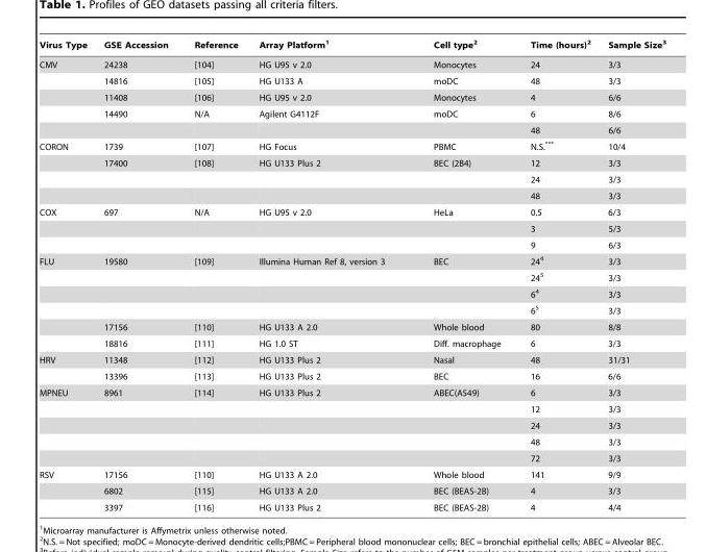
<table><thead><tr><td>Virus Type</td><td>GSE Accession</td><td>Reference</td><td>Array Platform<sup>1</sup></td><td>Cell type<sup>2</sup></td><td>Time (hours)<sup>2</sup></td><td>Sample Size<sup>3</sup></td></tr></thead><tbody><tr><td rowspan="5">CMV</td><td>24238</td><td>[104]</td><td>HG U95 v 2.0</td><td>Monocytes</td><td>24</td><td>3/3</td></tr><tr><td>14816</td><td>[105]</td><td>HG U133 A</td><td>moDC</td><td>48</td><td>3/3</td></tr><tr><td>11408</td><td>[106]</td><td>HG U95 v 2.0</td><td>Monocytes</td><td>4</td><td>6/6</td></tr><tr><td>14490</td><td>N/A</td><td>Agilent G4112F</td><td>moDC</td><td>6</td><td>8/6</td></tr><tr><td></td><td></td><td></td><td></td><td>48</td><td>6/6</td></tr><tr><td rowspan="4">CORON</td><td>1739</td><td>[107]</td><td>HG Focus</td><td>PBMC</td><td>N.S.***</td><td>10/4</td></tr><tr><td>17400</td><td>[108]</td><td>HG U133 Plus 2</td><td>BEC (2B4)</td><td>12</td><td>3/3</td></tr><tr><td></td><td></td><td></td><td></td><td>24</td><td>3/3</td></tr><tr><td></td><td></td><td></td><td></td><td>48</td><td>3/3</td></tr><tr><td rowspan="3">COX</td><td>697</td><td>N/A</td><td>HG U95 v 2.0</td><td>HeLa</td><td>0.5</td><td>6/3</td></tr><tr><td></td><td></td><td></td><td></td><td>3</td><td>5/3</td></tr><tr><td></td><td></td><td></td><td></td><td>9</td><td>6/3</td></tr><tr><td rowspan="6">FLU</td><td>19580</td><td>[109]</td><td>Illumina Human Ref 8, version 3</td><td>BEC</td><td>24<sup>4</sup></td><td>3/3</td></tr><tr><td></td><td></td><td></td><td></td><td>24<sup>5</sup></td><td>3/3</td></tr><tr><td></td><td></td><td></td><td></td><td>6<sup>4</sup></td><td>3/3</td></tr><tr><td></td><td></td><td></td><td></td><td>6<sup>5</sup></td><td>3/3</td></tr><tr><td>17156</td><td>[110]</td><td>HG U133 A 2.0</td><td>Whole blood</td><td>80</td><td>8/8</td></tr><tr><td>18816</td><td>[111]</td><td>HG 1.0 ST</td><td>Diff. macrophage</td><td>6</td><td>3/3</td></tr><tr><td rowspan="2">HRV</td><td>11348</td><td>[112]</td><td>HG U133 Plus 2</td><td>Nasal</td><td>48</td><td>31/31</td></tr><tr><td>13396</td><td>[113]</td><td>HG U133 Plus 2</td><td>BEC</td><td>16</td><td>6/6</td></tr><tr><td rowspan="5">MPNEU</td><td>8961</td><td>[114]</td><td>HG U133 Plus 2</td><td>ABEC(A549)</td><td>6</td><td>3/3</td></tr><tr><td></td><td></td><td></td><td></td><td>12</td><td>3/3</td></tr><tr><td></td><td></td><td></td><td></td><td>24</td><td>3/3</td></tr><tr><td></td><td></td><td></td><td></td><td>48</td><td>3/3</td></tr><tr><td></td><td></td><td></td><td></td><td>72</td><td>3/3</td></tr><tr><td rowspan="3">RSV</td><td>17156</td><td>[110]</td><td>HG U133 A 2.0</td><td>Whole blood</td><td>141</td><td>9/9</td></tr><tr><td>6802</td><td>[115]</td><td>HG U133 A 2.0</td><td>BEC (BEAS-2B)</td><td>4</td><td>3/3</td></tr><tr><td>3397</td><td>[116]</td><td>HG U133 Plus 2</td><td>BEC (BEAS-2B)</td><td>4</td><td>4/4</td></tr></tbody></table>